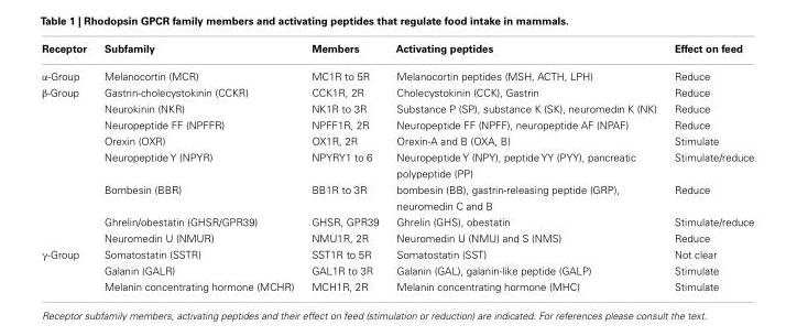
<table><thead><tr><td>Receptor</td><td>Subfamily</td><td>Members</td><td>Activating peptides</td><td>Effect on feed</td></tr></thead><tbody><tr><td>α-Group</td><td>Melanocortin (MCR)</td><td>MC1R to 5R</td><td>Melanocortin peptides (MSH, ACTH, LPH)</td><td>Reduce</td></tr><tr><td rowspan="8">β-Group</td><td>Gastrin-cholecystokinin (CCKR)</td><td>CCK1R, 2R</td><td>Cholecystokinin (CCK), Gastrin</td><td>Reduce</td></tr><tr><td>Neurokinin (NKR)</td><td>NK1R to 3R</td><td>Substance P (SP), substance K (SK), neuromedin K (NK)</td><td>Reduce</td></tr><tr><td>Neuropeptide FF (NPFFR)</td><td>NPFF1R, 2R</td><td>Neuropeptide FF (NPFF), neuropeptide AF (NPAF)</td><td>Reduce</td></tr><tr><td>Orexin (OXR)</td><td>OX1R, 2R</td><td>Orexin-A and B (OXA, B)</td><td>Stimulate</td></tr><tr><td>Neuropeptide Y (NPYR)</td><td>NPYRY1 to 6</td><td>Neuropeptide Y (NPY), peptide YY (PYY), pancreatic polypeptide (PP)</td><td>Stimulate/reduce</td></tr><tr><td>Bombesin (BBR)</td><td>BB1R to 3R</td><td>bombesin (BB), gastrin-releasing peptide (GRP), neuromedin C and B</td><td>Reduce</td></tr><tr><td>Ghrelin/obestatin (GHSR/GPR39)</td><td>GHSR, GPR39</td><td>Ghrelin (GHS), obestatin</td><td>Stimulate/reduce</td></tr><tr><td>Neuromedin U (NMUR)</td><td>NMU1R, 2R</td><td>Neuromedin U (NMU) and S (NMS)</td><td>Reduce</td></tr><tr><td rowspan="3">γ-Group</td><td>Somatostatin (SSTR)</td><td>SST1R to 5R</td><td>Somatostatin (SST)</td><td>Not clear</td></tr><tr><td>Galanin (GALR)</td><td>GAL1R to 3R</td><td>Galanin (GAL), galanin-like peptide (GALP)</td><td>Stimulate</td></tr><tr><td>Melanin concentrating hormone (MCHR)</td><td>MCH1R, 2R</td><td>Melanin concentrating hormone (MHC)</td><td>Stimulate</td></tr></tbody></table>